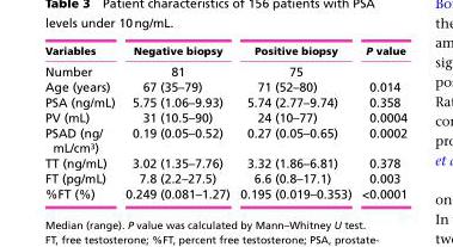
<table><thead><tr><td>Variables</td><td>Negative biopsy</td><td>Positive biopsy</td><td>P value</td></tr></thead><tbody><tr><td>Number</td><td>81</td><td>75</td><td></td></tr><tr><td>Age (years)</td><td>67 (35–79)</td><td>71 (52–80)</td><td>0.014</td></tr><tr><td>PSA (ng/mL)</td><td>5.75 (1.06–9.93)</td><td>5.74 (2.77–9.74)</td><td>0.358</td></tr><tr><td>PV (mL)</td><td>31 (10.5–90)</td><td>24 (10–77)</td><td>0.0004</td></tr><tr><td>PSAD (ng/ mL/cm<sup>3</sup>)</td><td>0.19 (0.05–0.52)</td><td>0.27 (0.05–0.65)</td><td>0.0002</td></tr><tr><td>TT (ng/mL)</td><td>3.02 (1.35–7.76)</td><td>3.32 (1.86–6.81)</td><td>0.378</td></tr><tr><td>FT (pg/mL)</td><td>7.8 (2.2–27.5)</td><td>6.6 (0.8–17.1)</td><td>0.003</td></tr><tr><td>%FT (%)</td><td>0.249 (0.081–1.27)</td><td>0.195 (0.019–0.353)</td><td>&lt;0.0001</td></tr></tbody></table>